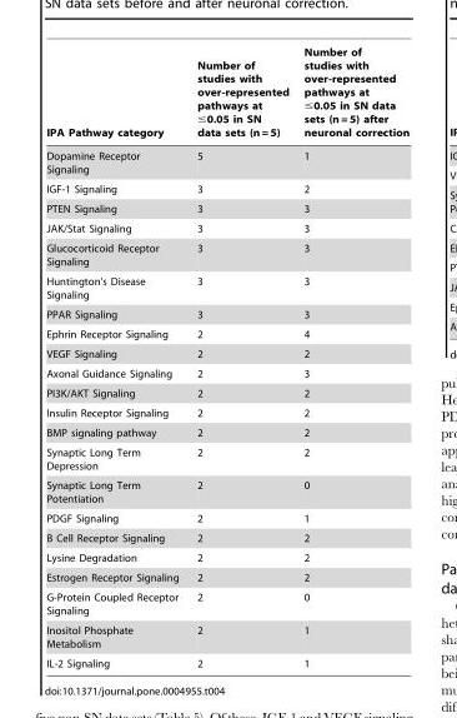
<table><thead><tr><td>IPA Pathway category</td><td>Number of studies with over-represented pathways at ≤0.05 in SN data sets (n = 5)</td><td>Number of studies with over-represented pathways at ≤0.05 in SN data sets (n = 5) after neuronal correction</td></tr></thead><tbody><tr><td>Dopamine Receptor Signaling</td><td>5</td><td>1</td></tr><tr><td>IGF-1 Signaling</td><td>3</td><td>2</td></tr><tr><td>PTEN Signaling</td><td>3</td><td>3</td></tr><tr><td>JAK/Stat Signaling</td><td>3</td><td>3</td></tr><tr><td>Glucocorticoid Receptor Signaling</td><td>3</td><td>3</td></tr><tr><td>Huntington’s Disease Signaling</td><td>3</td><td>3</td></tr><tr><td>PPAR Signaling</td><td>3</td><td>3</td></tr><tr><td>Ephrin Receptor Signaling</td><td>2</td><td>4</td></tr><tr><td>VEGF Signaling</td><td>2</td><td>2</td></tr><tr><td>Axonal Guidance Signaling</td><td>2</td><td>3</td></tr><tr><td>PI3K/AKT Signaling</td><td>2</td><td>2</td></tr><tr><td>Insulin Receptor Signaling</td><td>2</td><td>2</td></tr><tr><td>BMP signaling pathway</td><td>2</td><td>2</td></tr><tr><td>Synaptic Long Term Depression</td><td>2</td><td>2</td></tr><tr><td>Synaptic Long Term Potentiation</td><td>2</td><td>0</td></tr><tr><td>PDGF Signaling</td><td>2</td><td>1</td></tr><tr><td>B Cell Receptor Signaling</td><td>2</td><td>2</td></tr><tr><td>Lysine Degradation</td><td>2</td><td>2</td></tr><tr><td>Estrogen Receptor Signaling</td><td>2</td><td>2</td></tr><tr><td>G-Protein Coupled Receptor Signaling</td><td>2</td><td>0</td></tr><tr><td>Inositol Phosphate Metabolism</td><td>2</td><td>1</td></tr><tr><td>IL-2 Signaling</td><td>2</td><td>1</td></tr></tbody></table>